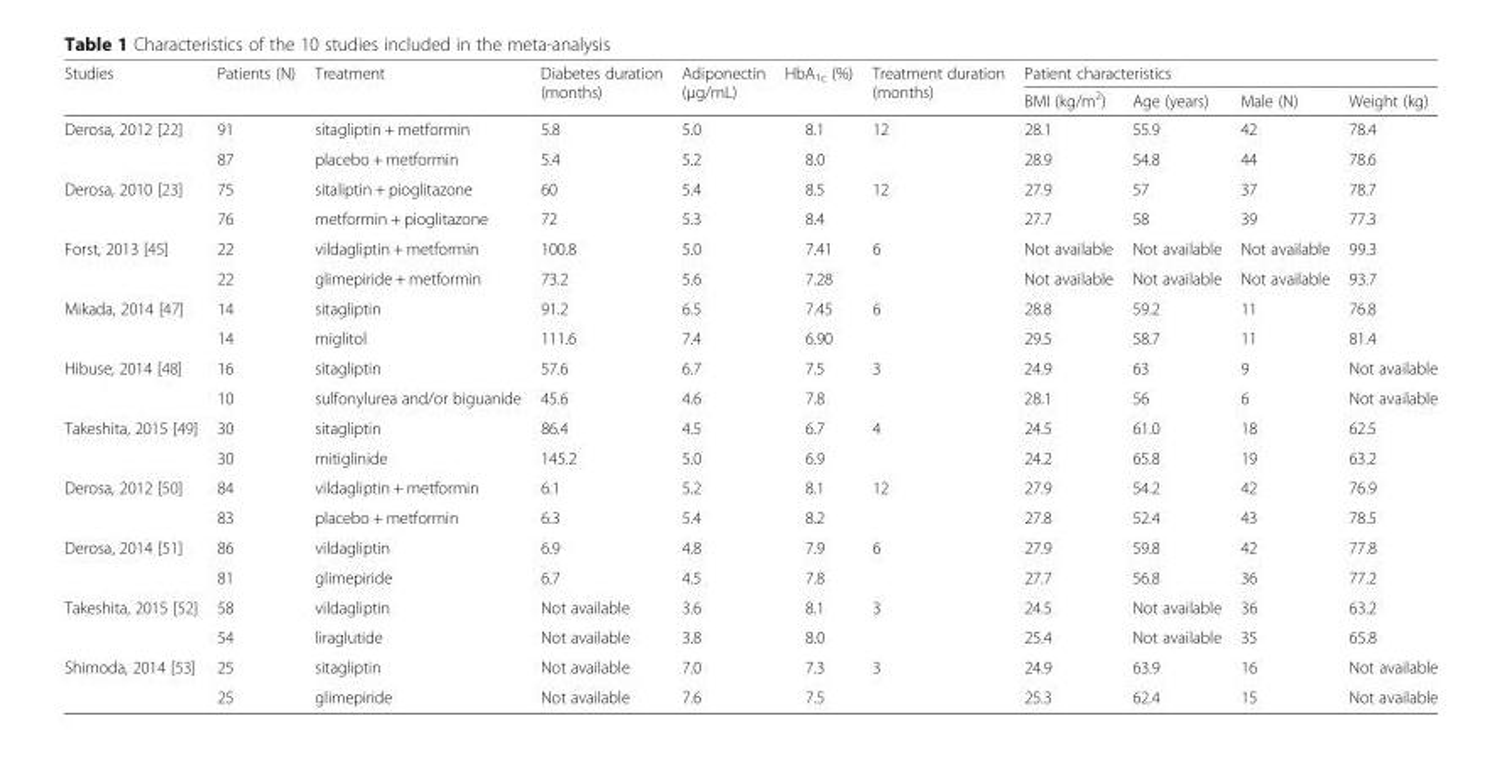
<table><thead><tr><td rowspan="2">Studies</td><td rowspan="2">Patients (N)</td><td rowspan="2">Treatment</td><td rowspan="2">Diabetes duration (months)</td><td rowspan="2">Adiponectin (μg/mL)</td><td rowspan="2">HbA<sub>1c</sub> (%)</td><td rowspan="2">Treatment duration (months)</td><td colspan="4">Patient characteristics</td></tr><tr><td>BMI (kg/m<sup>2</sup>)</td><td>Age (years)</td><td>Male (N)</td><td>Weight (kg)</td></tr></thead><tbody><tr><td rowspan="2">Derosa, 2012 [22]</td><td>91</td><td>sitagliptin + metformin</td><td>5.8</td><td>5.0</td><td>8.1</td><td>12</td><td>28.1</td><td>55.9</td><td>42</td><td>78.4</td></tr><tr><td>87</td><td>placebo + metformin</td><td>5.4</td><td>5.2</td><td>8.0</td><td></td><td>28.9</td><td>54.8</td><td>44</td><td>78.6</td></tr><tr><td rowspan="2">Derosa, 2010 [23]</td><td>75</td><td>sitaliptin + pioglitazone</td><td>60</td><td>5.4</td><td>8.5</td><td>12</td><td>27.9</td><td>57</td><td>37</td><td>78.7</td></tr><tr><td>76</td><td>metformin + pioglitazone</td><td>72</td><td>5.3</td><td>8.4</td><td></td><td>27.7</td><td>58</td><td>39</td><td>77.3</td></tr><tr><td rowspan="2">Forst, 2013 [45]</td><td>22</td><td>vildagliptin + metformin</td><td>100.8</td><td>5.0</td><td>7.41</td><td>6</td><td>Not available</td><td>Not available</td><td>Not available</td><td>99.3</td></tr><tr><td>22</td><td>glimepiride + metformin</td><td>73.2</td><td>5.6</td><td>7.28</td><td></td><td>Not available</td><td>Not available</td><td>Not available</td><td>93.7</td></tr><tr><td rowspan="2">Mikada, 2014 [47]</td><td>14</td><td>sitagliptin</td><td>91.2</td><td>6.5</td><td>7.45</td><td>6</td><td>28.8</td><td>59.2</td><td>11</td><td>76.8</td></tr><tr><td>14</td><td>miglitol</td><td>111.6</td><td>7.4</td><td>6.90</td><td></td><td>29.5</td><td>58.7</td><td>11</td><td>81.4</td></tr><tr><td rowspan="2">Hibuse, 2014 [48]</td><td>16</td><td>sitagliptin</td><td>57.6</td><td>6.7</td><td>7.5</td><td>3</td><td>24.9</td><td>63</td><td>9</td><td>Not available</td></tr><tr><td>10</td><td>sulfonylurea and/or biguanide</td><td>45.6</td><td>4.6</td><td>7.8</td><td></td><td>28.1</td><td>56</td><td>6</td><td>Not available</td></tr><tr><td rowspan="2">Takeshita, 2015 [49]</td><td>30</td><td>sitagliptin</td><td>86.4</td><td>4.5</td><td>6.7</td><td>4</td><td>24.5</td><td>61.0</td><td>18</td><td>62.5</td></tr><tr><td>30</td><td>mitiglinide</td><td>145.2</td><td>5.0</td><td>6.9</td><td></td><td>24.2</td><td>65.8</td><td>19</td><td>63.2</td></tr><tr><td rowspan="2">Derosa, 2012 [50]</td><td>84</td><td>vildagliptin + metformin</td><td>6.1</td><td>5.2</td><td>8.1</td><td>12</td><td>27.9</td><td>54.2</td><td>42</td><td>76.9</td></tr><tr><td>83</td><td>placebo + metformin</td><td>6.3</td><td>5.4</td><td>8.2</td><td></td><td>27.8</td><td>52.4</td><td>43</td><td>78.5</td></tr><tr><td rowspan="2">Derosa, 2014 [51]</td><td>86</td><td>vildagliptin</td><td>6.9</td><td>4.8</td><td>7.9</td><td>6</td><td>27.9</td><td>59.8</td><td>42</td><td>77.8</td></tr><tr><td>81</td><td>glimepiride</td><td>6.7</td><td>4.5</td><td>7.8</td><td></td><td>27.7</td><td>56.8</td><td>36</td><td>77.2</td></tr><tr><td rowspan="2">Takeshita, 2015 [52]</td><td>58</td><td>vildagliptin</td><td>Not available</td><td>3.6</td><td>8.1</td><td>3</td><td>24.5</td><td>Not available</td><td>36</td><td>63.2</td></tr><tr><td>54</td><td>liraglutide</td><td>Not available</td><td>3.8</td><td>8.0</td><td></td><td>25.4</td><td>Not available</td><td>35</td><td>65.8</td></tr><tr><td rowspan="2">Shimoda, 2014 [53]</td><td>25</td><td>sitagliptin</td><td>Not available</td><td>7.0</td><td>7.3</td><td>3</td><td>24.9</td><td>63.9</td><td>16</td><td>Not available</td></tr><tr><td>25</td><td>glimepiride</td><td>Not available</td><td>7.6</td><td>7.5</td><td></td><td>25.3</td><td>62.4</td><td>15</td><td>Not available</td></tr></tbody></table>